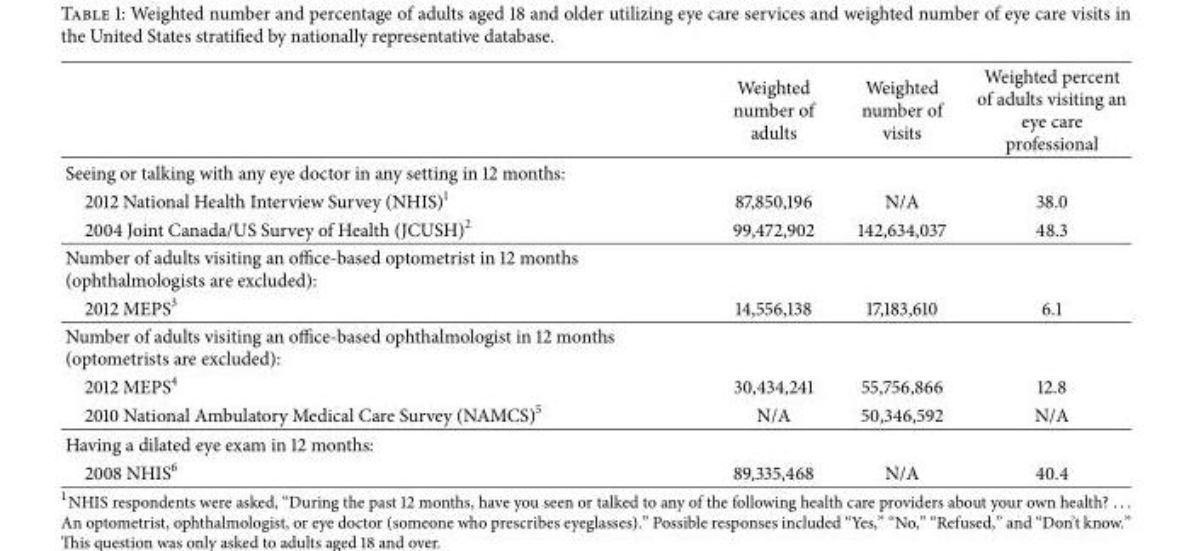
<table><thead><tr><td></td><td>Weighted number of adults</td><td>Weighted number of visits</td><td>Weighted percent of adults visiting an eye care professional</td></tr></thead><tbody><tr><td colspan="4">Seeing or talking with any eye doctor in any setting in 12 months:</td></tr><tr><td>2012 National Health Interview Survey (NHIS)<sup>1</sup></td><td>87,850,196</td><td>N/A</td><td>38.0</td></tr><tr><td>2004 Joint Canada/US Survey of Health (JCUSH)<sup>2</sup></td><td>99,472,902</td><td>142,634,037</td><td>48.3</td></tr><tr><td colspan="4">Number of adults visiting an office-based optometrist in 12 months (ophthalmologists are excluded):</td></tr><tr><td>2012 MEPS<sup>3</sup></td><td>14,556,138</td><td>17,183,610</td><td>6.1</td></tr><tr><td colspan="4">Number of adults visiting an office-based ophthalmologist in 12 months (optometrists are excluded):</td></tr><tr><td>2012 MEPS<sup>4</sup></td><td>30,434,241</td><td>55,756,866</td><td>12.8</td></tr><tr><td>2010 National Ambulatory Medical Care Survey (NAMCS)<sup>5</sup></td><td>N/A</td><td>50,346,592</td><td>N/A</td></tr><tr><td colspan="4">Having a dilated eye exam in 12 months:</td></tr><tr><td>2008 NHIS<sup>6</sup></td><td>89,335,468</td><td>N/A</td><td>40.4</td></tr></tbody></table>